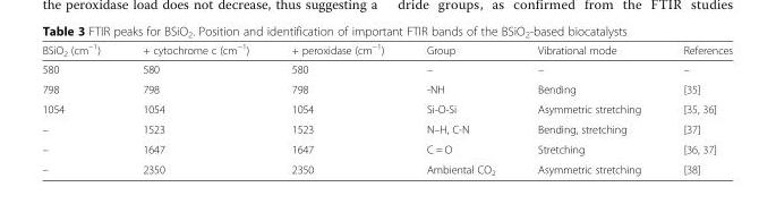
<table><thead><tr><td>BSiO<sub>2</sub> (cm<sup>−1</sup>)</td><td>+ cytochrome c (cm<sup>−1</sup>)</td><td>+ peroxidase (cm<sup>−1</sup>)</td><td>Group</td><td>Vibrational mode</td><td>References</td></tr></thead><tbody><tr><td>580</td><td>580</td><td>580</td><td>–</td><td>–</td><td>–</td></tr><tr><td>798</td><td>798</td><td>798</td><td>-NH</td><td>Bending</td><td>[35]</td></tr><tr><td>1054</td><td>1054</td><td>1054</td><td>Si-O-Si</td><td>Asymmetric stretching</td><td>[35, 36]</td></tr><tr><td>–</td><td>1523</td><td>1523</td><td>N–H, C-N</td><td>Bending, stretching</td><td>[37]</td></tr><tr><td>–</td><td>1647</td><td>1647</td><td>C = O</td><td>Stretching</td><td>[36, 37]</td></tr><tr><td>–</td><td>2350</td><td>2350</td><td>Ambiental CO<sub>2</sub></td><td>Asymmetric stretching</td><td>[38]</td></tr></tbody></table>